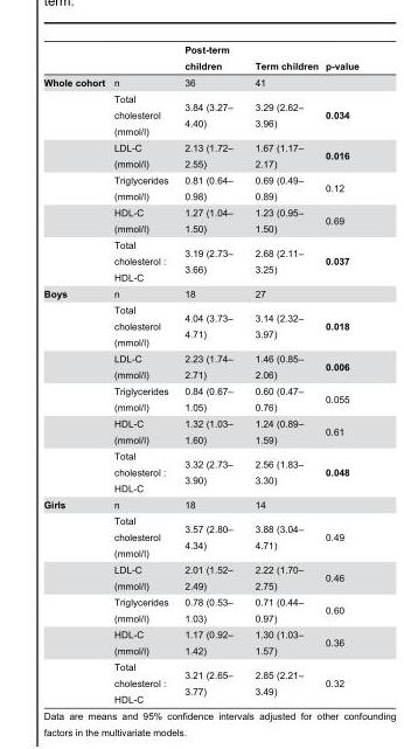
<table><thead><tr><td></td><td></td><td>Post-term children</td><td>Term children</td><td>p-value</td></tr></thead><tbody><tr><td rowspan="6">Whole cohort</td><td>n</td><td>36</td><td>41</td><td></td></tr><tr><td>Total cholesterol (mmol/l)</td><td>3.84 (3.27– 4.40)</td><td>3.29 (2.62– 3.96)</td><td>0.034</td></tr><tr><td>LDL-C (mmol/l)</td><td>2.13 (1.72– 2.55)</td><td>1.67 (1.17– 2.17)</td><td>0.016</td></tr><tr><td>Triglycerides (mmol/l)</td><td>0.81 (0.64– 0.98)</td><td>0.69 (0.49– 0.89)</td><td>0.12</td></tr><tr><td>HDL-C (mmol/l)</td><td>1.27 (1.04– 1.50)</td><td>1.23 (0.95– 1.50)</td><td>0.69</td></tr><tr><td>Total cholesterol : HDL-C</td><td>3.19 (2.73– 3.66)</td><td>2.68 (2.11– 3.25)</td><td>0.037</td></tr><tr><td rowspan="6">Boys</td><td>n</td><td>18</td><td>27</td><td></td></tr><tr><td>Total cholesterol (mmol/l)</td><td>4.04 (3.73– 4.71)</td><td>3.14 (2.32– 3.97)</td><td>0.018</td></tr><tr><td>LDL-C (mmol/l)</td><td>2.23 (1.74– 2.71)</td><td>1.46 (0.85– 2.06)</td><td>0.006</td></tr><tr><td>Triglycerides (mmol/l)</td><td>0.84 (0.67– 1.05)</td><td>0.60 (0.47– 0.76)</td><td>0.055</td></tr><tr><td>HDL-C (mmol/l)</td><td>1.32 (1.03– 1.60)</td><td>1.24 (0.89– 1.59)</td><td>0.61</td></tr><tr><td>Total cholesterol : HDL-C</td><td>3.32 (2.73– 3.90)</td><td>2.56 (1.83– 3.30)</td><td>0.048</td></tr><tr><td rowspan="6">Girls</td><td>n</td><td>18</td><td>14</td><td></td></tr><tr><td>Total cholesterol (mmol/l)</td><td>3.57 (2.80– 4.34)</td><td>3.88 (3.04– 4.71)</td><td>0.49</td></tr><tr><td>LDL-C (mmol/l)</td><td>2.01 (1.52– 2.49)</td><td>2.22 (1.70– 2.75)</td><td>0.46</td></tr><tr><td>Triglycerides (mmol/l)</td><td>0.78 (0.53– 1.03)</td><td>0.71 (0.44– 0.97)</td><td>0.60</td></tr><tr><td>HDL-C (mmol/l)</td><td>1.17 (0.92– 1.42)</td><td>1.30 (1.03– 1.57)</td><td>0.36</td></tr><tr><td>Total cholesterol : HDL-C</td><td>3.21 (2.65– 3.77)</td><td>2.85 (2.21– 3.49)</td><td>0.32</td></tr></tbody></table>